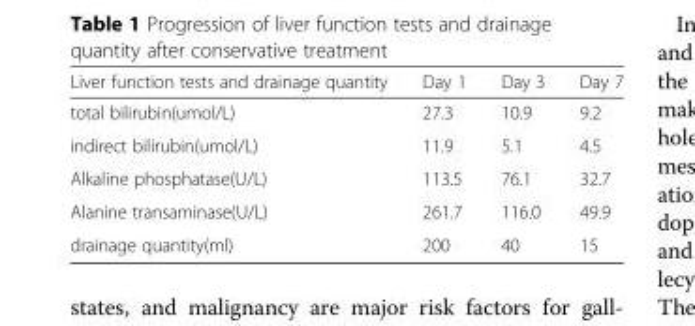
<table><thead><tr><td>Liver function tests and drainage quantity</td><td>Day 1</td><td>Day 3</td><td>Day 7</td></tr></thead><tbody><tr><td>total bilirubin(umol/L)</td><td>27.3</td><td>10.9</td><td>9.2</td></tr><tr><td>indirect bilirubin(umol/L)</td><td>11.9</td><td>5.1</td><td>4.5</td></tr><tr><td>Alkaline phosphatase(U/L)</td><td>113.5</td><td>76.1</td><td>32.7</td></tr><tr><td>Alanine transaminase(U/L)</td><td>261.7</td><td>116.0</td><td>49.9</td></tr><tr><td>drainage quantity(ml)</td><td>200</td><td>40</td><td>15</td></tr></tbody></table>